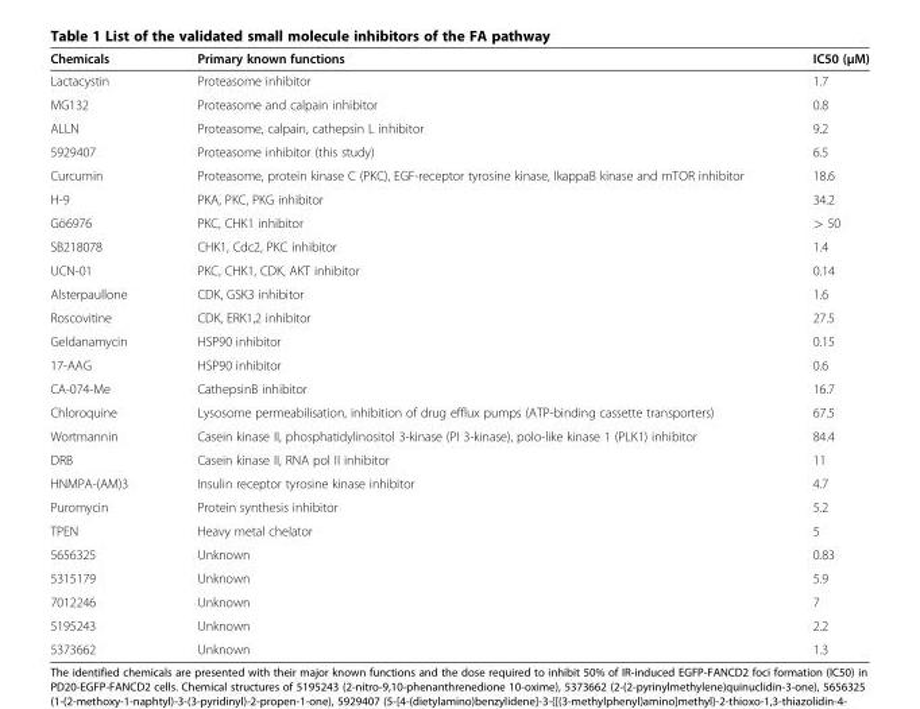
<table><thead><tr><td>Chemicals</td><td>Primary known functions</td><td>IC50 (μM)</td></tr></thead><tbody><tr><td>Lactacystin</td><td>Proteasome inhibitor</td><td>1.7</td></tr><tr><td>MG132</td><td>Proteasome and calpain inhibitor</td><td>0.8</td></tr><tr><td>ALLN</td><td>Proteasome, calpain, cathepsin L inhibitor</td><td>9.2</td></tr><tr><td>5929407</td><td>Proteasome inhibitor (this study)</td><td>6.5</td></tr><tr><td>Curcumin</td><td>Proteasome, protein kinase C (PKC), EGF-receptor tyrosine kinase, IkappaB kinase and mTOR inhibitor</td><td>18.6</td></tr><tr><td>H-9</td><td>PKA, PKC, PKG inhibitor</td><td>34.2</td></tr><tr><td>Gö6976</td><td>PKC, CHK1 inhibitor</td><td>&gt; 50</td></tr><tr><td>SB218078</td><td>CHK1, Cdc2, PKC inhibitor</td><td>1.4</td></tr><tr><td>UCN-01</td><td>PKC, CHK1, CDK, AKT inhibitor</td><td>0.14</td></tr><tr><td>Alsterpaullone</td><td>CDK, GSK3 inhibitor</td><td>1.6</td></tr><tr><td>Roscovitine</td><td>CDK, ERK1,2 inhibitor</td><td>27.5</td></tr><tr><td>Geldanamycin</td><td>HSP90 inhibitor</td><td>0.15</td></tr><tr><td>17-AAG</td><td>HSP90 inhibitor</td><td>0.6</td></tr><tr><td>CA-074-Me</td><td>CathepsinB inhibitor</td><td>16.7</td></tr><tr><td>Chloroquine</td><td>Lysosome permeabilisation, inhibition of drug efflux pumps (ATP-binding cassette transporters)</td><td>67.5</td></tr><tr><td>Wortmannin</td><td>Casein kinase II, phosphatidylinositol 3-kinase (PI 3-kinase), polo-like kinase 1 (PLK1) inhibitor</td><td>84.4</td></tr><tr><td>DRB</td><td>Casein kinase II, RNA pol II inhibitor</td><td>11</td></tr><tr><td>HNMPA-(AM)3</td><td>Insulin receptor tyrosine kinase inhibitor</td><td>4.7</td></tr><tr><td>Puromycin</td><td>Protein synthesis inhibitor</td><td>5.2</td></tr><tr><td>TPEN</td><td>Heavy metal chelator</td><td>5</td></tr><tr><td>5656325</td><td>Unknown</td><td>0.83</td></tr><tr><td>5315179</td><td>Unknown</td><td>5.9</td></tr><tr><td>7012246</td><td>Unknown</td><td>7</td></tr><tr><td>5195243</td><td>Unknown</td><td>2.2</td></tr><tr><td>5373662</td><td>Unknown</td><td>1.3</td></tr></tbody></table>